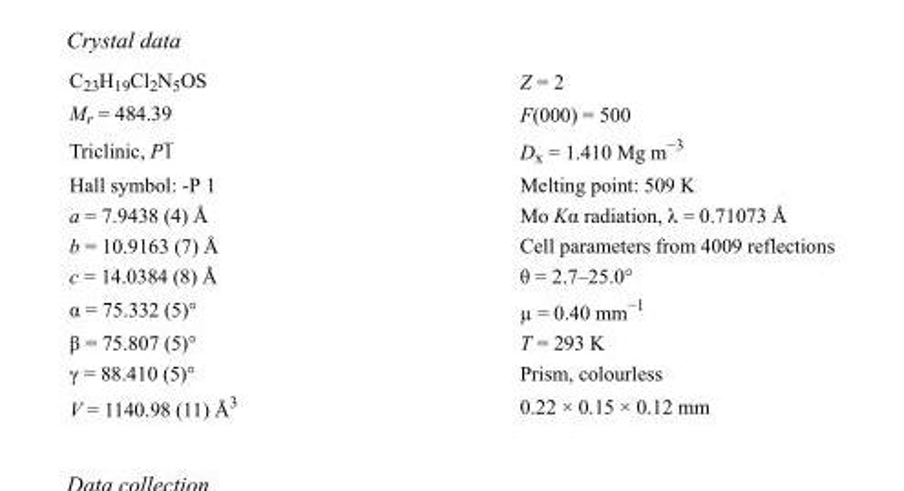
<table><tbody><tr><td>C<sub>23</sub>H<sub>19</sub>Cl<sub>2</sub>N<sub>5</sub>OS</td><td>Z = 2</td></tr><tr><td>M<sub>r</sub> = 484.39</td><td>F(000) = 500</td></tr><tr><td>Triclinic, P1</td><td>D<sub>x</sub> = 1.410 Mg m<sup>−3</sup></td></tr><tr><td>Hall symbol: -P 1</td><td>Melting point: 509 K</td></tr><tr><td>a = 7.9438 (4) Å</td><td>Mo Kα radiation, λ = 0.71073 Å</td></tr><tr><td>b = 10.9163 (7) Å</td><td>Cell parameters from 4009 reflections</td></tr><tr><td>c = 14.0384 (8) Å</td><td>θ = 2.7–25.0°</td></tr><tr><td>α = 75.332 (5)°</td><td>µ = 0.40 mm<sup>−1</sup></td></tr><tr><td>β = 75.807 (5)°</td><td>T = 293 K</td></tr><tr><td>γ = 88.410 (5)°</td><td>Prism, colourless</td></tr><tr><td>V = 1140.98 (11) Å<sup>3</sup></td><td>0.22 × 0.15 × 0.12 mm</td></tr></tbody></table>